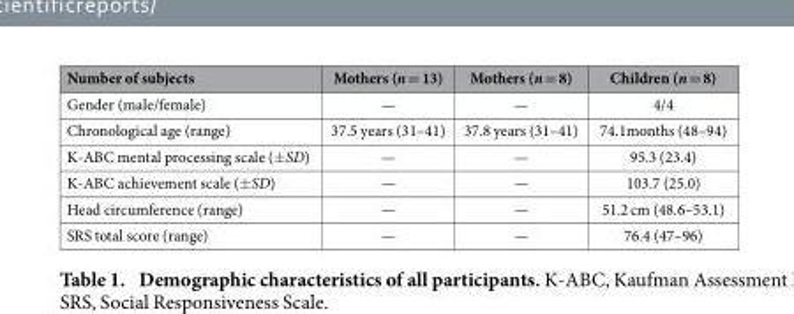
<table><thead><tr><td>Number of subjects</td><td>Mothers (n = 13)</td><td>Mothers (n = 8)</td><td>Children (n = 8)</td></tr></thead><tbody><tr><td>Gender (male/female)</td><td>—</td><td>—</td><td>4/4</td></tr><tr><td>Chronological age (range)</td><td>37.5 years (31–41)</td><td>37.8 years (31–41)</td><td>74.1months (48–94)</td></tr><tr><td>K-ABC mental processing scale (± SD)</td><td>—</td><td>—</td><td>95.3 (23.4)</td></tr><tr><td>K-ABC achievement scale (± SD)</td><td>—</td><td>—</td><td>103.7 (25.0)</td></tr><tr><td>Head circumference (range)</td><td>—</td><td>—</td><td>51.2 cm (48.6–53.1)</td></tr><tr><td>SRS total score (range)</td><td>—</td><td>—</td><td>76.4 (47–96)</td></tr></tbody></table>